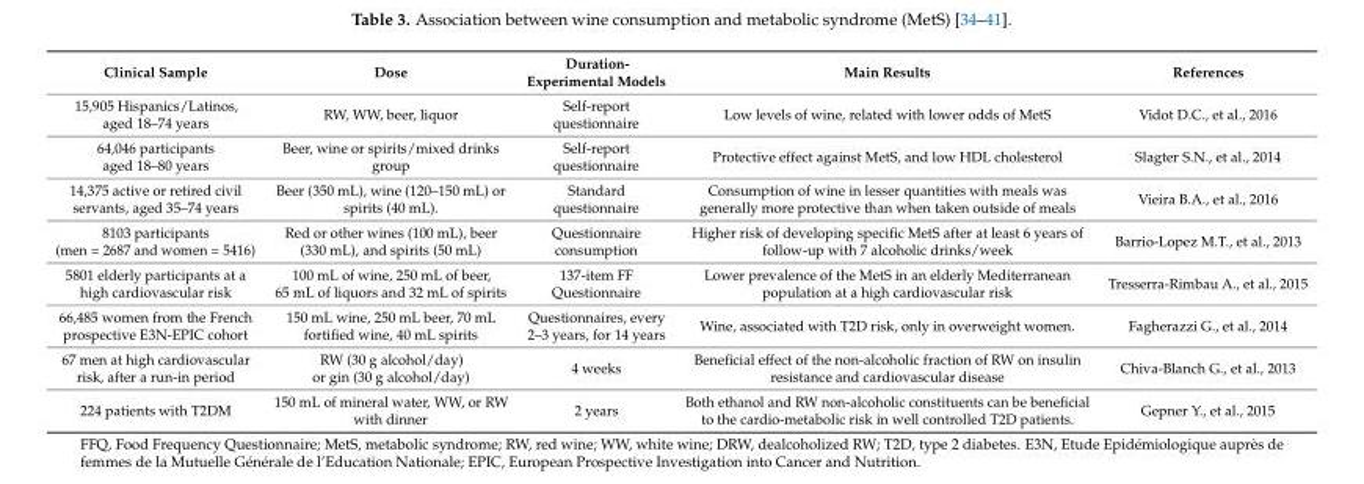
<table><thead><tr><td>Clinical Sample</td><td>Dose</td><td>Duration- Experimental Models</td><td>Main Results</td><td>References</td></tr></thead><tbody><tr><td>15,905 Hispanics/Latinos, aged 18–74 years</td><td>RW, WW, beer, liquor</td><td>Self-report questionnaire</td><td>Low levels of wine, related with lower odds of MetS</td><td>Vidot D.C., et al., 2016</td></tr><tr><td>64,046 participants aged 18–80 years</td><td>Beer, wine or spirits/mixed drinks group</td><td>Self-report questionnaire</td><td>Protective effect against MetS, and low HDL cholesterol</td><td>Slagter S.N., et al., 2014</td></tr><tr><td>14,375 active or retired civil servants, aged 35–74 years</td><td>Beer (350 mL), wine (120–150 mL) or spirits (40 mL).</td><td>Standard questionnaire</td><td>Consumption of wine in lesser quantities with meals was generally more protective than when taken outside of meals</td><td>Vieira B.A., et al., 2016</td></tr><tr><td>8103 participants (men = 2687 and women = 5416)</td><td>Red or other wines (100 mL), beer (330 mL), and spirits (50 mL)</td><td>Questionnaire consumption</td><td>Higher risk of developing specific MetS after at least 6 years of follow-up with 7 alcoholic drinks/week</td><td>Barrio-Lopez M.T., et al., 2013</td></tr><tr><td>5801 elderly participants at a high cardiovascular risk</td><td>100 mL of wine, 250 mL of beer, 65 mL of liquors and 32 mL of spirits</td><td>137-item FF Questionnaire</td><td>Lower prevalence of the MetS in an elderly Mediterranean population at a high cardiovascular risk</td><td>Tresserra-Rimbau A., et al., 2015</td></tr><tr><td>66,485 women from the French prospective E3N-EPIC cohort</td><td>150 mL wine, 250 mL beer, 70 mL fortified wine, 40 mL spirits</td><td>Questionnaires, every 2–3 years, for 14 years</td><td>Wine, associated with T2D risk, only in overweight women.</td><td>Fagherazzi G., et al., 2014</td></tr><tr><td>67 men at high cardiovascular risk, after a run-in period</td><td>RW (30 g alcohol/day) or gin (30 g alcohol/day)</td><td>4 weeks</td><td>Beneficial effect of the non-alcoholic fraction of RW on insulin resistance and cardiovascular disease</td><td>Chiva-Blanch G., et al., 2013</td></tr><tr><td>224 patients with T2DM</td><td>150 mL of mineral water, WW, or RW with dinner</td><td>2 years</td><td>Both ethanol and RW non-alcoholic constituents can be beneficial to the cardio-metabolic risk in well controlled T2D patients.</td><td>Gepner Y., et al., 2015</td></tr></tbody></table>